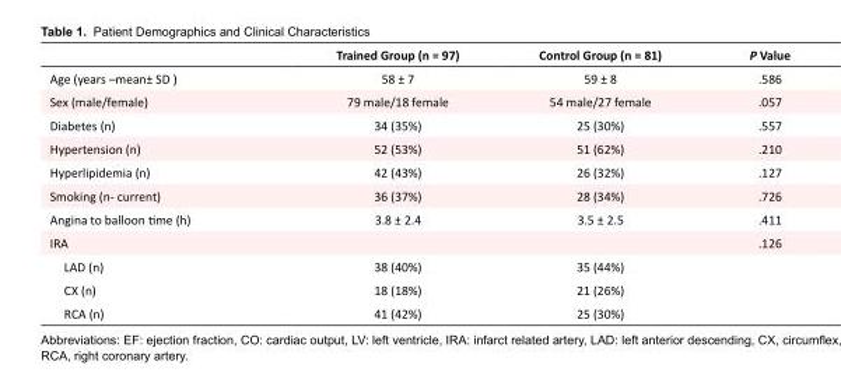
<table><thead><tr><td></td><td>Trained Group (n = 97)</td><td>Control Group (n = 81)</td><td>P Value</td></tr></thead><tbody><tr><td>Age (years –mean± SD )</td><td>58 ± 7</td><td>59 ± 8</td><td>.586</td></tr><tr><td>Sex (male/female)</td><td>79 male/18 female</td><td>54 male/27 female</td><td>.057</td></tr><tr><td>Diabetes (n)</td><td>34 (35%)</td><td>25 (30%)</td><td>.557</td></tr><tr><td>Hypertension (n)</td><td>52 (53%)</td><td>51 (62%)</td><td>.210</td></tr><tr><td>Hyperlipidemia (n)</td><td>42 (43%)</td><td>26 (32%)</td><td>.127</td></tr><tr><td>Smoking (n- current)</td><td>36 (37%)</td><td>28 (34%)</td><td>.726</td></tr><tr><td>Angina to balloon time (h)</td><td>3.8 ± 2.4</td><td>3.5 ± 2.5</td><td>.411</td></tr><tr><td>IRA</td><td></td><td></td><td>.126</td></tr><tr><td>LAD (n)</td><td>38 (40%)</td><td>35 (44%)</td><td></td></tr><tr><td>CX (n)</td><td>18 (18%)</td><td>21 (26%)</td><td></td></tr><tr><td>RCA (n)</td><td>41 (42%)</td><td>25 (30%)</td><td></td></tr></tbody></table>